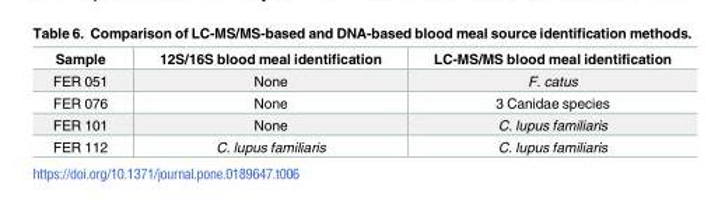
<table><thead><tr><td>Sample</td><td>12S/16S blood meal identification</td><td>LC-MS/MS blood meal identification</td></tr></thead><tbody><tr><td>FER 051</td><td>None</td><td>F. catus</td></tr><tr><td>FER 076</td><td>None</td><td>3 Canidae species</td></tr><tr><td>FER 101</td><td>None</td><td>C. lupus familiaris</td></tr><tr><td>FER 112</td><td>C. lupus familiaris</td><td>C. lupus familiaris</td></tr></tbody></table>